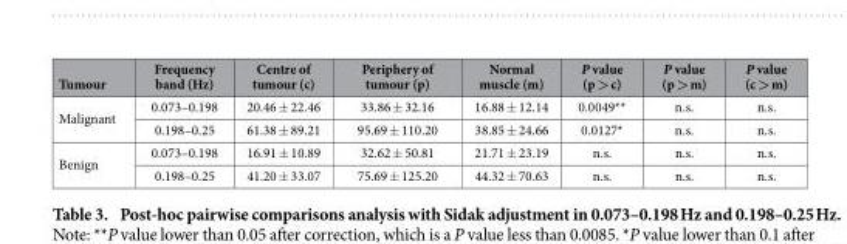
<table><thead><tr><td>Tumour</td><td>Frequency band (Hz)</td><td>Centre of tumour (c)</td><td>Periphery of tumour (p)</td><td>Normal muscle (m)</td><td>P value (p &gt; c)</td><td>P value (p &gt; m)</td><td>P value (c &gt; m)</td></tr></thead><tbody><tr><td rowspan="2">Malignant</td><td>0.073–0.198</td><td>20.46 ± 22.46</td><td>33.86 ± 32.16</td><td>16.88 ± 12.14</td><td>0.0049**</td><td>n.s.</td><td>n.s.</td></tr><tr><td>0.198–0.25</td><td>61.38 ± 89.21</td><td>95.69 ± 110.20</td><td>38.85 ± 24.66</td><td>0.0127*</td><td>n.s.</td><td>n.s.</td></tr><tr><td rowspan="2">Benign</td><td>0.073–0.198</td><td>16.91 ± 10.89</td><td>32.62 ± 50.81</td><td>21.71 ± 23.19</td><td>n.s.</td><td>n.s.</td><td>n.s.</td></tr><tr><td>0.198–0.25</td><td>41.20 ± 33.07</td><td>75.69 ± 125.20</td><td>44.32 ± 70.63</td><td>n.s.</td><td>n.s.</td><td>n.s.</td></tr></tbody></table>